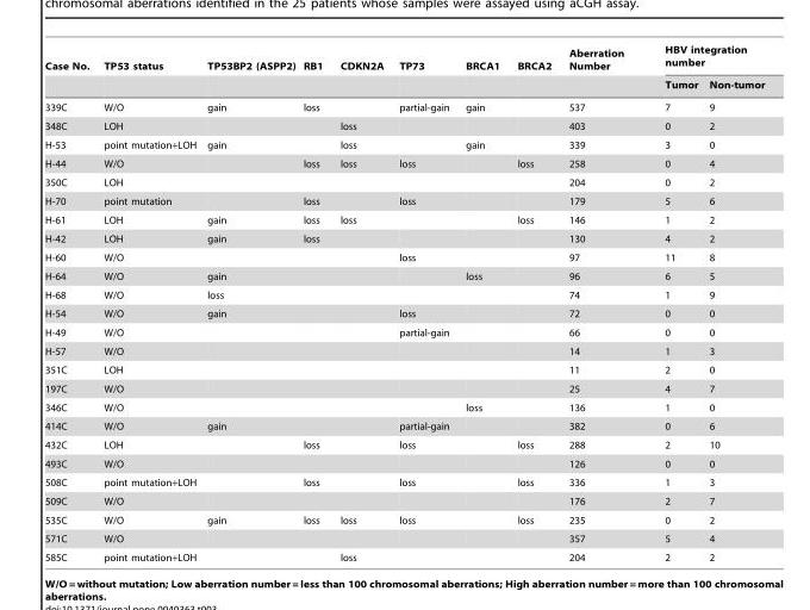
<table><thead><tr><td rowspan="2">Case No.</td><td rowspan="2">TP53 status</td><td rowspan="2">TP53BP2 (ASPP2)</td><td rowspan="2">RB1</td><td rowspan="2">CDKN2A</td><td rowspan="2">TP73</td><td rowspan="2">BRCA1</td><td rowspan="2">BRCA2</td><td rowspan="2">Aberration Number</td><td colspan="2">HBV integration number</td></tr><tr><td>Tumor</td><td>Non-tumor</td></tr></thead><tbody><tr><td>339C</td><td>W/O</td><td>gain</td><td>loss</td><td></td><td>partial-gain</td><td>gain</td><td></td><td>537</td><td>7</td><td>9</td></tr><tr><td>348C</td><td>LOH</td><td></td><td></td><td>loss</td><td></td><td></td><td></td><td>403</td><td>0</td><td>2</td></tr><tr><td>H-53</td><td>point mutation+LOH</td><td>gain</td><td></td><td>loss</td><td></td><td>gain</td><td></td><td>339</td><td>3</td><td>0</td></tr><tr><td>H-44</td><td>W/O</td><td></td><td>loss</td><td>loss</td><td>loss</td><td></td><td>loss</td><td>258</td><td>0</td><td>4</td></tr><tr><td>350C</td><td>LOH</td><td></td><td></td><td></td><td></td><td></td><td></td><td>204</td><td>0</td><td>2</td></tr><tr><td>H-70</td><td>point mutation</td><td></td><td>loss</td><td></td><td>loss</td><td></td><td></td><td>179</td><td>5</td><td>6</td></tr><tr><td>H-61</td><td>LOH</td><td>gain</td><td>loss</td><td>loss</td><td></td><td></td><td>loss</td><td>146</td><td>1</td><td>2</td></tr><tr><td>H-42</td><td>LOH</td><td>gain</td><td>loss</td><td></td><td></td><td></td><td></td><td>130</td><td>4</td><td>2</td></tr><tr><td>H-60</td><td>W/O</td><td></td><td></td><td></td><td>loss</td><td></td><td></td><td>97</td><td>11</td><td>8</td></tr><tr><td>H-64</td><td>W/O</td><td>gain</td><td></td><td></td><td></td><td>loss</td><td></td><td>96</td><td>6</td><td>5</td></tr><tr><td>H-68</td><td>W/O</td><td>loss</td><td></td><td></td><td></td><td></td><td></td><td>74</td><td>1</td><td>9</td></tr><tr><td>H-54</td><td>W/O</td><td>gain</td><td></td><td></td><td>loss</td><td></td><td></td><td>72</td><td>0</td><td>0</td></tr><tr><td>H-49</td><td>W/O</td><td></td><td></td><td></td><td>partial-gain</td><td></td><td></td><td>66</td><td>0</td><td>0</td></tr><tr><td>H-57</td><td>W/O</td><td></td><td></td><td></td><td></td><td></td><td></td><td>14</td><td>1</td><td>3</td></tr><tr><td>351C</td><td>LOH</td><td></td><td></td><td></td><td></td><td></td><td></td><td>11</td><td>2</td><td>0</td></tr><tr><td>197C</td><td>W/O</td><td></td><td></td><td></td><td></td><td></td><td></td><td>25</td><td>4</td><td>7</td></tr><tr><td>346C</td><td>W/O</td><td></td><td></td><td></td><td></td><td>loss</td><td></td><td>136</td><td>1</td><td>0</td></tr><tr><td>414C</td><td>W/O</td><td>gain</td><td></td><td></td><td>partial-gain</td><td></td><td></td><td>382</td><td>0</td><td>6</td></tr><tr><td>432C</td><td>LOH</td><td></td><td>loss</td><td></td><td>loss</td><td></td><td>loss</td><td>288</td><td>2</td><td>10</td></tr><tr><td>493C</td><td>W/O</td><td></td><td></td><td></td><td></td><td></td><td></td><td>126</td><td>0</td><td>0</td></tr><tr><td>508C</td><td>point mutation+LOH</td><td></td><td>loss</td><td></td><td>loss</td><td></td><td>loss</td><td>336</td><td>1</td><td>3</td></tr><tr><td>509C</td><td>W/O</td><td></td><td></td><td></td><td></td><td></td><td></td><td>176</td><td>2</td><td>7</td></tr><tr><td>535C</td><td>W/O</td><td>gain</td><td>loss</td><td>loss</td><td>loss</td><td></td><td>loss</td><td>235</td><td>0</td><td>2</td></tr><tr><td>571C</td><td>W/O</td><td></td><td></td><td></td><td></td><td></td><td></td><td>357</td><td>5</td><td>4</td></tr><tr><td>585C</td><td>point mutation+LOH</td><td></td><td></td><td>loss</td><td></td><td></td><td></td><td>204</td><td>2</td><td>2</td></tr></tbody></table>